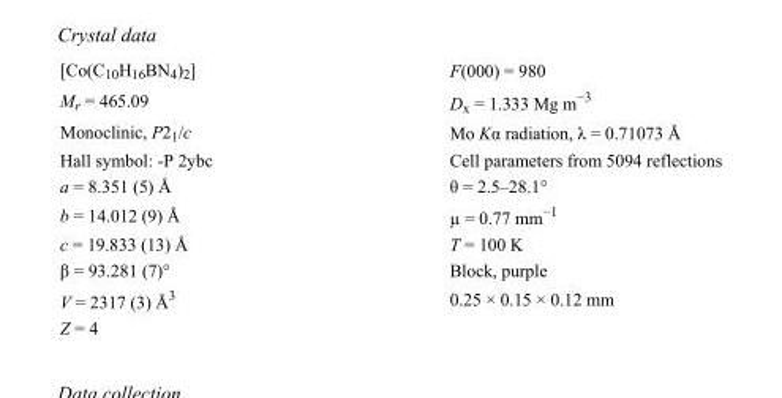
<table><tbody><tr><td>[Co(C<sub>10</sub>H<sub>16</sub>BN<sub>4</sub>)<sub>2</sub>]</td><td>F(000) = 980</td></tr><tr><td>M<sub>r</sub> = 465.09</td><td>D<sub>x</sub> = 1.333 Mg m<sup>−3</sup></td></tr><tr><td>Monoclinic, P2<sub>1</sub>/c</td><td>Mo Kα radiation, λ = 0.71073 Å</td></tr><tr><td>Hall symbol: -P 2ybc</td><td>Cell parameters from 5094 reflections</td></tr><tr><td>a = 8.351 (5) Å</td><td>θ = 2.5–28.1°</td></tr><tr><td>b = 14.012 (9) Å</td><td>µ = 0.77 mm<sup>−1</sup></td></tr><tr><td>c = 19.833 (13) Å</td><td>T = 100 K</td></tr><tr><td>β = 93.281 (7)°</td><td>Block, purple</td></tr><tr><td>V = 2317 (3) Å<sup>3</sup></td><td>0.25 × 0.15 × 0.12 mm</td></tr><tr><td>Z = 4</td><td></td></tr></tbody></table>